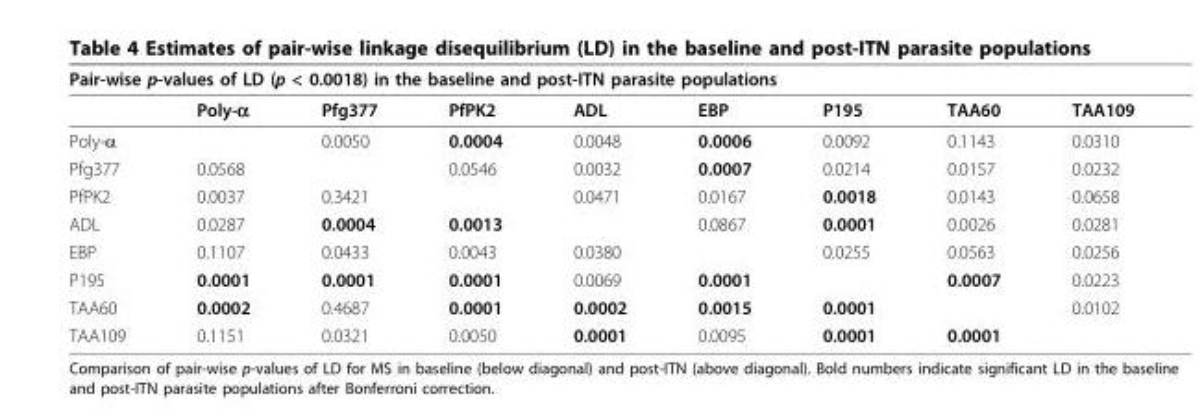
<table><thead><tr><td colspan="9">Pair-wise p-values of LD (p &lt; 0.0018) in the baseline and post-ITN parasite populations</td></tr><tr><td></td><td>Poly-α</td><td>Pfg377</td><td>PfPK2</td><td>ADL</td><td>EBP</td><td>P195</td><td>TAA60</td><td>TAA109</td></tr></thead><tbody><tr><td>Poly-α</td><td></td><td>0.0050</td><td>0.0004</td><td>0.0048</td><td>0.0006</td><td>0.0092</td><td>0.1143</td><td>0.0310</td></tr><tr><td>Pfg377</td><td>0.0568</td><td></td><td>0.0546</td><td>0.0032</td><td>0.0007</td><td>0.0214</td><td>0.0157</td><td>0.0232</td></tr><tr><td>PfPK2</td><td>0.0037</td><td>0.3421</td><td></td><td>0.0471</td><td>0.0167</td><td>0.0018</td><td>0.0143</td><td>0.0658</td></tr><tr><td>ADL</td><td>0.0287</td><td>0.0004</td><td>0.0013</td><td></td><td>0.0867</td><td>0.0001</td><td>0.0026</td><td>0.0281</td></tr><tr><td>EBP</td><td>0.1107</td><td>0.0433</td><td>0.0043</td><td>0.0380</td><td></td><td>0.0255</td><td>0.0563</td><td>0.0256</td></tr><tr><td>P195</td><td>0.0001</td><td>0.0001</td><td>0.0001</td><td>0.0069</td><td>0.0001</td><td></td><td>0.0007</td><td>0.0223</td></tr><tr><td>TAA60</td><td>0.0002</td><td>0.4687</td><td>0.0001</td><td>0.0002</td><td>0.0015</td><td>0.0001</td><td></td><td>0.0102</td></tr><tr><td>TAA109</td><td>0.1151</td><td>0.0321</td><td>0.0050</td><td>0.0001</td><td>0.0095</td><td>0.0001</td><td>0.0001</td><td></td></tr></tbody></table>